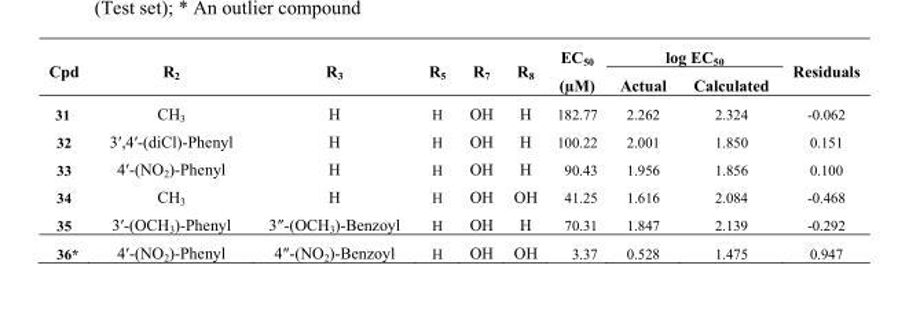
<table><thead><tr><td rowspan="2">Cpd</td><td rowspan="2">R<sub>2</sub></td><td rowspan="2">R<sub>3</sub></td><td rowspan="2">R<sub>5</sub></td><td rowspan="2">R<sub>7</sub></td><td rowspan="2">R<sub>8</sub></td><td rowspan="2">EC<sub>50</sub> (µM)</td><td colspan="2">log EC<sub>50</sub></td><td rowspan="2">Residuals</td></tr><tr><td>Actual</td><td>Calculated</td></tr></thead><tbody><tr><td>31</td><td>CH<sub>3</sub></td><td>H</td><td>H</td><td>OH</td><td>H</td><td>182.77</td><td>2.262</td><td>2.324</td><td>-0.062</td></tr><tr><td>32</td><td>3′,4′-(diCl)-Phenyl</td><td>H</td><td>H</td><td>OH</td><td>H</td><td>100.22</td><td>2.001</td><td>1.850</td><td>0.151</td></tr><tr><td>33</td><td>4′-(NO<sub>2</sub>)-Phenyl</td><td>H</td><td>H</td><td>OH</td><td>H</td><td>90.43</td><td>1.956</td><td>1.856</td><td>0.100</td></tr><tr><td>34</td><td>CH<sub>3</sub></td><td>H</td><td>H</td><td>OH</td><td>OH</td><td>41.25</td><td>1.616</td><td>2.084</td><td>-0.468</td></tr><tr><td>35</td><td>3′-(OCH<sub>3</sub>)-Phenyl</td><td>3″-(OCH<sub>3</sub>)-Benzoyl</td><td>H</td><td>OH</td><td>H</td><td>70.31</td><td>1.847</td><td>2.139</td><td>-0.292</td></tr><tr><td>36*</td><td>4′-(NO<sub>2</sub>)-Phenyl</td><td>4″-(NO<sub>2</sub>)-Benzoyl</td><td>H</td><td>OH</td><td>OH</td><td>3.37</td><td>0.528</td><td>1.475</td><td>0.947</td></tr></tbody></table>